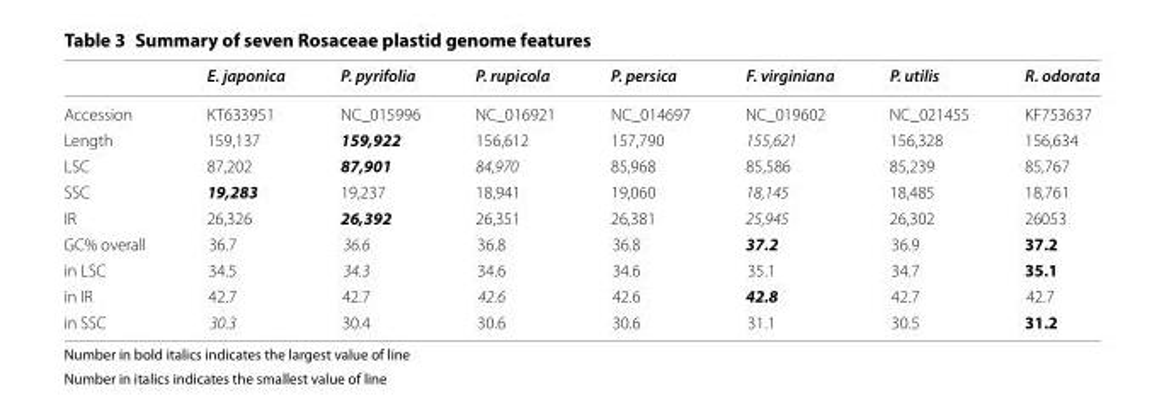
<table><thead><tr><td></td><td>E. japonica</td><td>P. pyrifolia</td><td>P. rupicola</td><td>P. persica</td><td>F. virginiana</td><td>P. utilis</td><td>R. odorata</td></tr></thead><tbody><tr><td>Accession</td><td>KT633951</td><td>NC_015996</td><td>NC_016921</td><td>NC_014697</td><td>NC_019602</td><td>NC_021455</td><td>KF753637</td></tr><tr><td>Length</td><td>159,137</td><td>159,922</td><td>156,612</td><td>157,790</td><td>155,621</td><td>156,328</td><td>156,634</td></tr><tr><td>LSC</td><td>87,202</td><td>87,901</td><td>84,970</td><td>85,968</td><td>85,586</td><td>85,239</td><td>85,767</td></tr><tr><td>SSC</td><td>19,283</td><td>19,237</td><td>18,941</td><td>19,060</td><td>18,145</td><td>18,485</td><td>18,761</td></tr><tr><td>IR</td><td>26,326</td><td>26,392</td><td>26,351</td><td>26,381</td><td>25,945</td><td>26,302</td><td>26053</td></tr><tr><td>GC% overall</td><td>36.7</td><td>36.6</td><td>36.8</td><td>36.8</td><td>37.2</td><td>36.9</td><td>37.2</td></tr><tr><td>in LSC</td><td>34.5</td><td>34.3</td><td>34.6</td><td>34.6</td><td>35.1</td><td>34.7</td><td>35.1</td></tr><tr><td>in IR</td><td>42.7</td><td>42.7</td><td>42.6</td><td>42.6</td><td>42.8</td><td>42.7</td><td>42.7</td></tr><tr><td>in SSC</td><td>30.3</td><td>30.4</td><td>30.6</td><td>30.6</td><td>31.1</td><td>30.5</td><td>31.2</td></tr></tbody></table>